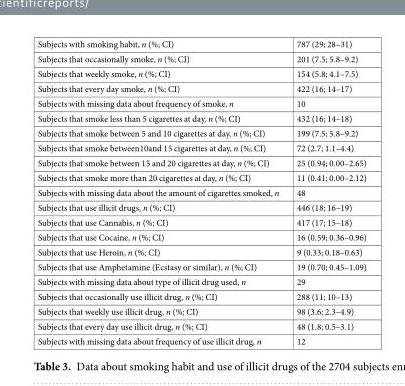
<table><tbody><tr><td>Subjects with smoking habit, n (%; CI)</td><td>787 (29; 28–31)</td></tr><tr><td>Subjects that occasionally smoke, n (%; CI)</td><td>201 (7.5; 5.8–9.2)</td></tr><tr><td>Subjects that weekly smoke, n (%; CI)</td><td>154 (5.8; 4.1–7.5)</td></tr><tr><td>Subjects that every day smoke, n (%; CI)</td><td>422 (16; 14–17)</td></tr><tr><td>Subjects with missing data about frequency of smoke, n</td><td>10</td></tr><tr><td>Subjects that smoke less than 5 cigarettes at day, n (%; CI)</td><td>432 (16; 14–18)</td></tr><tr><td>Subjects that smoke between 5 and 10 cigarettes at day, n (%; CI)</td><td>199 (7.5; 5.8–9.2)</td></tr><tr><td>Subjects that smoke between10and 15 cigarettes at day, n (%; CI)</td><td>72 (2.7; 1.1–4.4)</td></tr><tr><td>Subjects that smoke between 15 and 20 cigarettes at day, n (%; CI)</td><td>25 (0.94; 0.00–2.65)</td></tr><tr><td>Subjects that smoke more than 20 cigarettes at day, n (%; CI)</td><td>11 (0.41; 0.00–2.12)</td></tr><tr><td>Subjects with missing data about the amount of cigarettes smoked, n</td><td>48</td></tr><tr><td>Subjects that use illicit drugs, n (%; CI)</td><td>446 (18; 16–19)</td></tr><tr><td>Subjects that use Cannabis, n (%; CI)</td><td>417 (17; 15–18)</td></tr><tr><td>Subjects that use Cocaine, n (%; CI)</td><td>16 (0.59; 0.36–0.96)</td></tr><tr><td>Subjects that use Heroin, n (%; CI)</td><td>9 (0.33; 0.18–0.63)</td></tr><tr><td>Subjects that use Amphetamine (Ecstasy or similar), n (%; CI)</td><td>19 (0.70; 0.45–1.09)</td></tr><tr><td>Subjects with missing data about type of illicit drug used, n</td><td>29</td></tr><tr><td>Subjects that occasionally use illicit drug, n (%; CI)</td><td>288 (11; 10–13)</td></tr><tr><td>Subjects that weekly use illicit drug, n (%; CI)</td><td>98 (3.6; 2.3–4.9)</td></tr><tr><td>Subjects that every day use illicit drug, n (%; CI)</td><td>48 (1.8; 0.5–3.1)</td></tr><tr><td>Subjects with missing data about frequency of use illicit drug, n</td><td>12</td></tr></tbody></table>